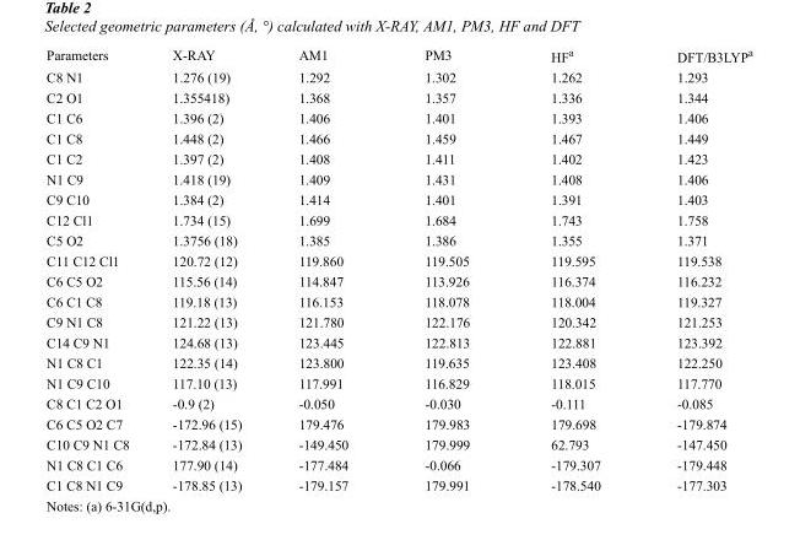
<table><tbody><tr><td>Parameters</td><td>X-RAY</td><td>AM1</td><td>PM3</td><td>HF<sup>a</sup></td><td>DFT/B3LYP<sup>a</sup></td></tr><tr><td>C8 N1</td><td>1.276 (19)</td><td>1.292</td><td>1.302</td><td>1.262</td><td>1.293</td></tr><tr><td>C2 O1</td><td>1.355418)</td><td>1.368</td><td>1.357</td><td>1.336</td><td>1.344</td></tr><tr><td>C1 C6</td><td>1.396 (2)</td><td>1.406</td><td>1.401</td><td>1.393</td><td>1.406</td></tr><tr><td>C1 C8</td><td>1.448 (2)</td><td>1.466</td><td>1.459</td><td>1.467</td><td>1.449</td></tr><tr><td>C1 C2</td><td>1.397 (2)</td><td>1.408</td><td>1.411</td><td>1.402</td><td>1.423</td></tr><tr><td>N1 C9</td><td>1.418 (19)</td><td>1.409</td><td>1.431</td><td>1.408</td><td>1.406</td></tr><tr><td>C9 C10</td><td>1.384 (2)</td><td>1.414</td><td>1.401</td><td>1.391</td><td>1.403</td></tr><tr><td>C12 Cl1</td><td>1.734 (15)</td><td>1.699</td><td>1.684</td><td>1.743</td><td>1.758</td></tr><tr><td>C5 O2</td><td>1.3756 (18)</td><td>1.385</td><td>1.386</td><td>1.355</td><td>1.371</td></tr><tr><td>C11 C12 Cl1</td><td>120.72 (12)</td><td>119.860</td><td>119.505</td><td>119.595</td><td>119.538</td></tr><tr><td>C6 C5 O2</td><td>115.56 (14)</td><td>114.847</td><td>113.926</td><td>116.374</td><td>116.232</td></tr><tr><td>C6 C1 C8</td><td>119.18 (13)</td><td>116.153</td><td>118.078</td><td>118.004</td><td>119.327</td></tr><tr><td>C9 N1 C8</td><td>121.22 (13)</td><td>121.780</td><td>122.176</td><td>120.342</td><td>121.253</td></tr><tr><td>C14 C9 N1</td><td>124.68 (13)</td><td>123.445</td><td>122.813</td><td>122.881</td><td>123.392</td></tr><tr><td>N1 C8 C1</td><td>122.35 (14)</td><td>123.800</td><td>119.635</td><td>123.408</td><td>122.250</td></tr><tr><td>N1 C9 C10</td><td>117.10 (13)</td><td>117.991</td><td>116.829</td><td>118.015</td><td>117.770</td></tr><tr><td>C8 C1 C2 O1</td><td>-0.9 (2)</td><td>-0.050</td><td>-0.030</td><td>-0.111</td><td>-0.085</td></tr><tr><td>C6 C5 O2 C7</td><td>-172.96 (15)</td><td>179.476</td><td>179.983</td><td>179.698</td><td>-179.874</td></tr><tr><td>C10 C9 N1 C8</td><td>-172.84 (13)</td><td>-149.450</td><td>179.999</td><td>62.793</td><td>-147.450</td></tr><tr><td>N1 C8 C1 C6</td><td>177.90 (14)</td><td>-177.484</td><td>-0.066</td><td>-179.307</td><td>-179.448</td></tr><tr><td>C1 C8 N1 C9</td><td>-178.85 (13)</td><td>-179.157</td><td>179.991</td><td>-178.540</td><td>-177.303</td></tr></tbody></table>